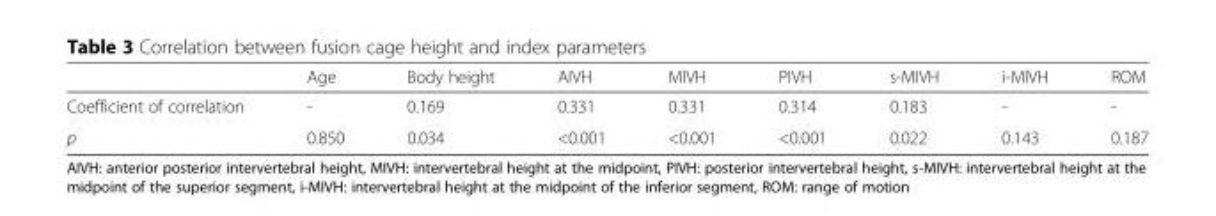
<table><thead><tr><td></td><td>Age</td><td>Body height</td><td>AIVH</td><td>MIVH</td><td>PIVH</td><td>s-MIVH</td><td>i-MIVH</td><td>ROM</td></tr></thead><tbody><tr><td>Coefficient of correlation</td><td>-</td><td>0.169</td><td>0.331</td><td>0.331</td><td>0.314</td><td>0.183</td><td>-</td><td>-</td></tr><tr><td>p</td><td>0.850</td><td>0.034</td><td>&lt;0.001</td><td>&lt;0.001</td><td>&lt;0.001</td><td>0.022</td><td>0.143</td><td>0.187</td></tr></tbody></table>